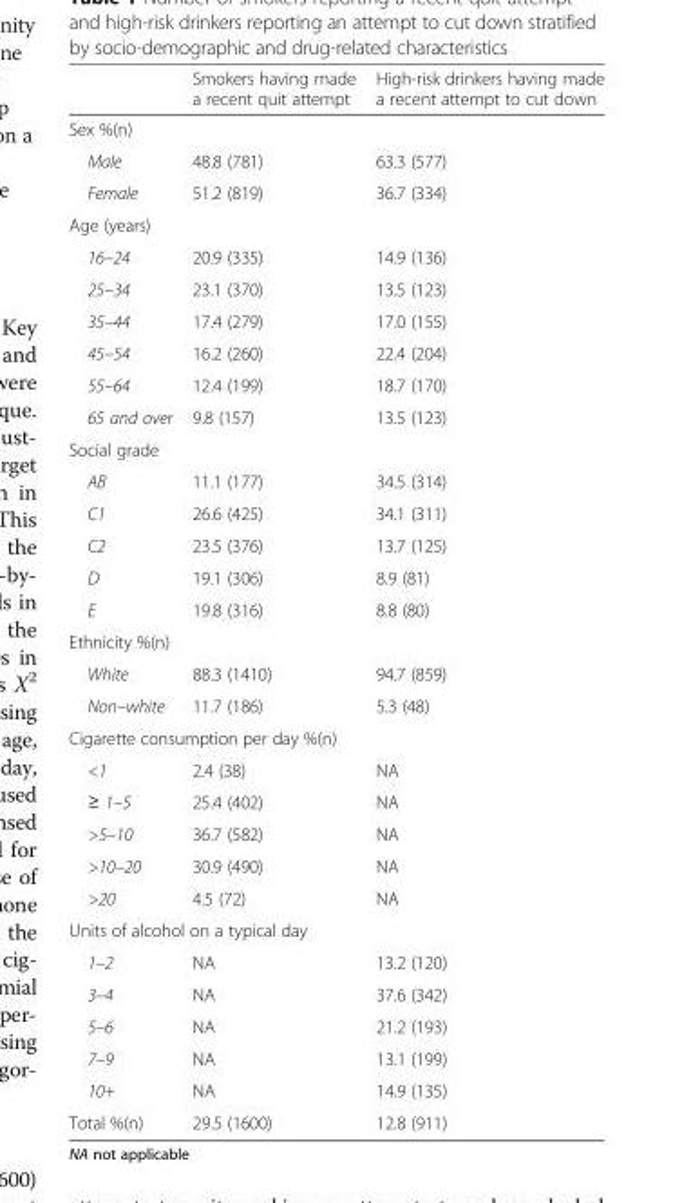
<table><thead><tr><td></td><td>Smokers having made a recent quit attempt</td><td>High-risk drinkers having made a recent attempt to cut down</td></tr></thead><tbody><tr><td colspan="3">Sex %(n)</td></tr><tr><td>Male</td><td>48.8 (781)</td><td>63.3 (577)</td></tr><tr><td>Female</td><td>51.2 (819)</td><td>36.7 (334)</td></tr><tr><td colspan="3">Age (years)</td></tr><tr><td>16–24</td><td>20.9 (335)</td><td>14.9 (136)</td></tr><tr><td>25–34</td><td>23.1 (370)</td><td>13.5 (123)</td></tr><tr><td>35–44</td><td>17.4 (279)</td><td>17.0 (155)</td></tr><tr><td>45–54</td><td>16.2 (260)</td><td>22.4 (204)</td></tr><tr><td>55–64</td><td>12.4 (199)</td><td>18.7 (170)</td></tr><tr><td>65 and over</td><td>9.8 (157)</td><td>13.5 (123)</td></tr><tr><td colspan="3">Social grade</td></tr><tr><td>AB</td><td>11.1 (177)</td><td>34.5 (314)</td></tr><tr><td>C1</td><td>26.6 (425)</td><td>34.1 (311)</td></tr><tr><td>C2</td><td>23.5 (376)</td><td>13.7 (125)</td></tr><tr><td>D</td><td>19.1 (306)</td><td>8.9 (81)</td></tr><tr><td>E</td><td>19.8 (316)</td><td>8.8 (80)</td></tr><tr><td colspan="3">Ethnicity %(n)</td></tr><tr><td>White</td><td>88.3 (1410)</td><td>94.7 (859)</td></tr><tr><td>Non–white</td><td>11.7 (186)</td><td>5.3 (48)</td></tr><tr><td colspan="3">Cigarette consumption per day %(n)</td></tr><tr><td>&lt;1</td><td>2.4 (38)</td><td>NA</td></tr><tr><td>≥ 1–5</td><td>25.4 (402)</td><td>NA</td></tr><tr><td>&gt;5–10</td><td>36.7 (582)</td><td>NA</td></tr><tr><td>&gt;10–20</td><td>30.9 (490)</td><td>NA</td></tr><tr><td>&gt;20</td><td>4.5 (72)</td><td>NA</td></tr><tr><td colspan="3">Units of alcohol on a typical day</td></tr><tr><td>1–2</td><td>NA</td><td>13.2 (120)</td></tr><tr><td>3–4</td><td>NA</td><td>37.6 (342)</td></tr><tr><td>5–6</td><td>NA</td><td>21.2 (193)</td></tr><tr><td>7–9</td><td>NA</td><td>13.1 (199)</td></tr><tr><td>10+</td><td>NA</td><td>14.9 (135)</td></tr><tr><td>Total %(n)</td><td>29.5 (1600)</td><td>12.8 (911)</td></tr></tbody></table>